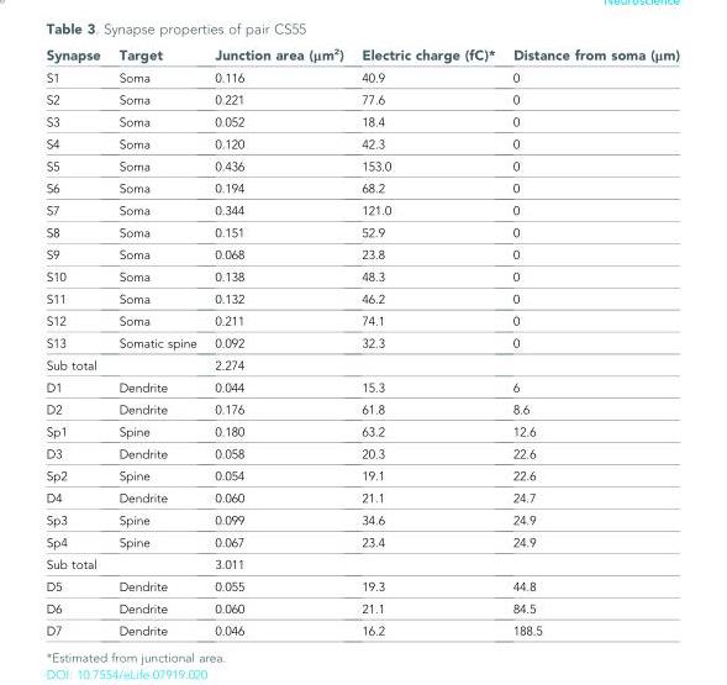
<table><thead><tr><td>Synapse</td><td>Target</td><td>Junction area (μm<sup>2</sup>)</td><td>Electric charge (fC)*</td><td>Distance from soma (μm)</td></tr></thead><tbody><tr><td>S1</td><td>Soma</td><td>0.116</td><td>40.9</td><td>0</td></tr><tr><td>S2</td><td>Soma</td><td>0.221</td><td>77.6</td><td>0</td></tr><tr><td>S3</td><td>Soma</td><td>0.052</td><td>18.4</td><td>0</td></tr><tr><td>S4</td><td>Soma</td><td>0.120</td><td>42.3</td><td>0</td></tr><tr><td>S5</td><td>Soma</td><td>0.436</td><td>153.0</td><td>0</td></tr><tr><td>S6</td><td>Soma</td><td>0.194</td><td>68.2</td><td>0</td></tr><tr><td>S7</td><td>Soma</td><td>0.344</td><td>121.0</td><td>0</td></tr><tr><td>S8</td><td>Soma</td><td>0.151</td><td>52.9</td><td>0</td></tr><tr><td>S9</td><td>Soma</td><td>0.068</td><td>23.8</td><td>0</td></tr><tr><td>S10</td><td>Soma</td><td>0.138</td><td>48.3</td><td>0</td></tr><tr><td>S11</td><td>Soma</td><td>0.132</td><td>46.2</td><td>0</td></tr><tr><td>S12</td><td>Soma</td><td>0.211</td><td>74.1</td><td>0</td></tr><tr><td>S13</td><td>Somatic spine</td><td>0.092</td><td>32.3</td><td>0</td></tr><tr><td>Sub total</td><td></td><td>2.274</td><td></td><td></td></tr><tr><td>D1</td><td>Dendrite</td><td>0.044</td><td>15.3</td><td>6</td></tr><tr><td>D2</td><td>Dendrite</td><td>0.176</td><td>61.8</td><td>8.6</td></tr><tr><td>Sp1</td><td>Spine</td><td>0.180</td><td>63.2</td><td>12.6</td></tr><tr><td>D3</td><td>Dendrite</td><td>0.058</td><td>20.3</td><td>22.6</td></tr><tr><td>Sp2</td><td>Spine</td><td>0.054</td><td>19.1</td><td>22.6</td></tr><tr><td>D4</td><td>Dendrite</td><td>0.060</td><td>21.1</td><td>24.7</td></tr><tr><td>Sp3</td><td>Spine</td><td>0.099</td><td>34.6</td><td>24.9</td></tr><tr><td>Sp4</td><td>Spine</td><td>0.067</td><td>23.4</td><td>24.9</td></tr><tr><td>Sub total</td><td></td><td>3.011</td><td></td><td></td></tr><tr><td>D5</td><td>Dendrite</td><td>0.055</td><td>19.3</td><td>44.8</td></tr><tr><td>D6</td><td>Dendrite</td><td>0.060</td><td>21.1</td><td>84.5</td></tr><tr><td>D7</td><td>Dendrite</td><td>0.046</td><td>16.2</td><td>188.5</td></tr></tbody></table>